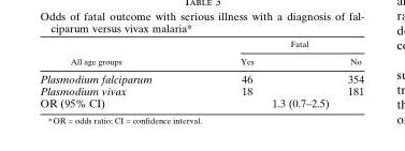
<table><thead><tr><td rowspan="2">All age groups</td><td colspan="2">Fatal</td></tr><tr><td>Yes</td><td>No</td></tr></thead><tbody><tr><td>Plasmodium falciparum</td><td>46</td><td>354</td></tr><tr><td>Plasmodium vivax</td><td>18</td><td>181</td></tr><tr><td>OR (95% CI)</td><td colspan="2">1.3 (0.7–2.5)</td></tr></tbody></table>